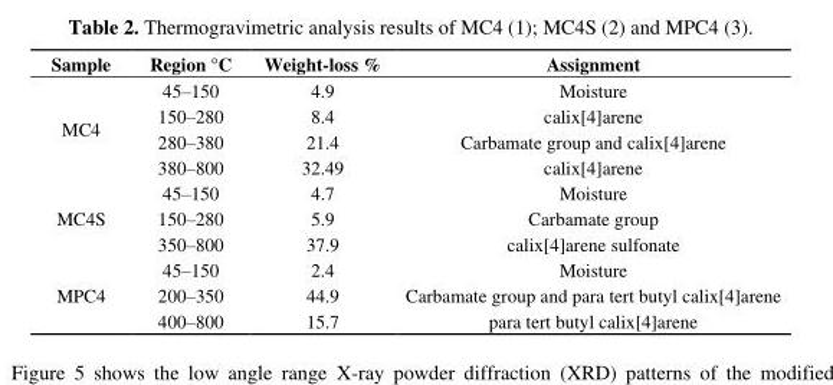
<table><thead><tr><td>Sample</td><td>Region °C</td><td>Weight-loss %</td><td>Assignment</td></tr></thead><tbody><tr><td rowspan="4">MC4</td><td>45–150</td><td>4.9</td><td>Moisture</td></tr><tr><td>150–280</td><td>8.4</td><td>calix[4]arene</td></tr><tr><td>280–380</td><td>21.4</td><td>Carbamate group and calix[4]arene</td></tr><tr><td>380–800</td><td>32.49</td><td>calix[4]arene</td></tr><tr><td rowspan="3">MC4S</td><td>45–150</td><td>4.7</td><td>Moisture</td></tr><tr><td>150–280</td><td>5.9</td><td>Carbamate group</td></tr><tr><td>350–800</td><td>37.9</td><td>calix[4]arene sulfonate</td></tr><tr><td rowspan="3">MPC4</td><td>45–150</td><td>2.4</td><td>Moisture</td></tr><tr><td>200–350</td><td>44.9</td><td>Carbamate group and para tert butyl calix[4]arene</td></tr><tr><td>400–800</td><td>15.7</td><td>para tert butyl calix[4]arene</td></tr></tbody></table>